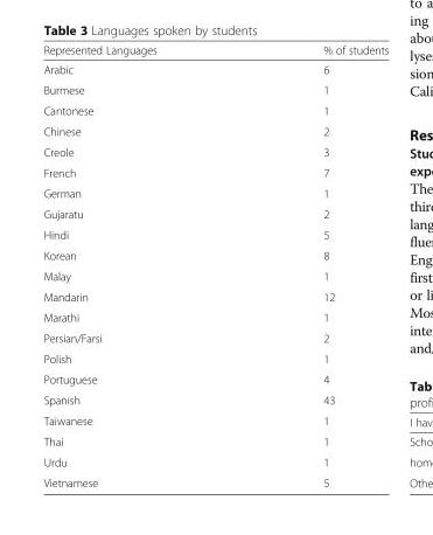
<table><thead><tr><td>Represented Languages</td><td>% of students</td></tr></thead><tbody><tr><td>Arabic</td><td>6</td></tr><tr><td>Burmese</td><td>1</td></tr><tr><td>Cantonese</td><td>1</td></tr><tr><td>Chinese</td><td>2</td></tr><tr><td>Creole</td><td>3</td></tr><tr><td>French</td><td>7</td></tr><tr><td>German</td><td>1</td></tr><tr><td>Gujaratu</td><td>2</td></tr><tr><td>Hindi</td><td>5</td></tr><tr><td>Korean</td><td>8</td></tr><tr><td>Malay</td><td>1</td></tr><tr><td>Mandarin</td><td>12</td></tr><tr><td>Marathi</td><td>1</td></tr><tr><td>Persian/Farsi</td><td>2</td></tr><tr><td>Polish</td><td>1</td></tr><tr><td>Portuguese</td><td>4</td></tr><tr><td>Spanish</td><td>43</td></tr><tr><td>Taiwanese</td><td>1</td></tr><tr><td>Thai</td><td>1</td></tr><tr><td>Urdu</td><td>1</td></tr><tr><td>Vietnamese</td><td>5</td></tr></tbody></table>